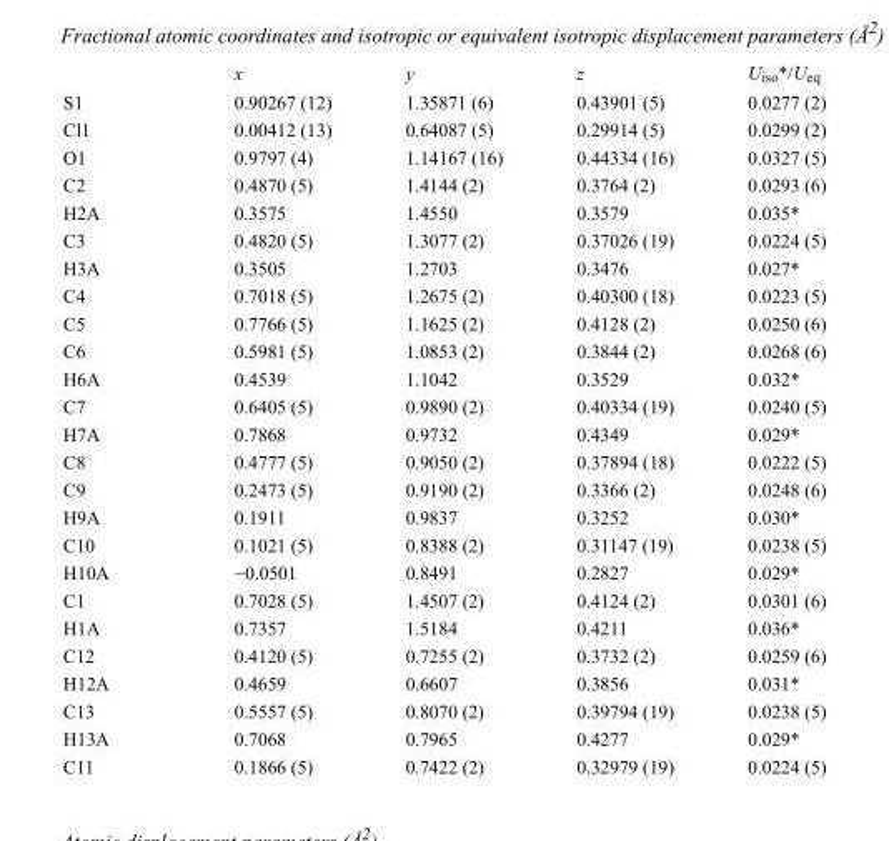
<table><thead><tr><td></td><td>x</td><td>y</td><td>z</td><td>U<sub>iso</sub>*/U<sub>eq</sub></td></tr></thead><tbody><tr><td>S1</td><td>0.90267 (12)</td><td>1.35871 (6)</td><td>0.43901 (5)</td><td>0.0277 (2)</td></tr><tr><td>Cl1</td><td>0.00412 (13)</td><td>0.64087 (5)</td><td>0.29914 (5)</td><td>0.0299 (2)</td></tr><tr><td>O1</td><td>0.9797 (4)</td><td>1.14167 (16)</td><td>0.44334 (16)</td><td>0.0327 (5)</td></tr><tr><td>C2</td><td>0.4870 (5)</td><td>1.4144 (2)</td><td>0.3764 (2)</td><td>0.0293 (6)</td></tr><tr><td>H2A</td><td>0.3575</td><td>1.4550</td><td>0.3579</td><td>0.035*</td></tr><tr><td>C3</td><td>0.4820 (5)</td><td>1.3077 (2)</td><td>0.37026 (19)</td><td>0.0224 (5)</td></tr><tr><td>H3A</td><td>0.3505</td><td>1.2703</td><td>0.3476</td><td>0.027*</td></tr><tr><td>C4</td><td>0.7018 (5)</td><td>1.2675 (2)</td><td>0.40300 (18)</td><td>0.0223 (5)</td></tr><tr><td>C5</td><td>0.7766 (5)</td><td>1.1625 (2)</td><td>0.4128 (2)</td><td>0.0250 (6)</td></tr><tr><td>C6</td><td>0.5981 (5)</td><td>1.0853 (2)</td><td>0.3844 (2)</td><td>0.0268 (6)</td></tr><tr><td>H6A</td><td>0.4539</td><td>1.1042</td><td>0.3529</td><td>0.032*</td></tr><tr><td>C7</td><td>0.6405 (5)</td><td>0.9890 (2)</td><td>0.40334 (19)</td><td>0.0240 (5)</td></tr><tr><td>H7A</td><td>0.7868</td><td>0.9732</td><td>0.4349</td><td>0.029*</td></tr><tr><td>C8</td><td>0.4777 (5)</td><td>0.9050 (2)</td><td>0.37894 (18)</td><td>0.0222 (5)</td></tr><tr><td>C9</td><td>0.2473 (5)</td><td>0.9190 (2)</td><td>0.3366 (2)</td><td>0.0248 (6)</td></tr><tr><td>H9A</td><td>0.1911</td><td>0.9837</td><td>0.3252</td><td>0.030*</td></tr><tr><td>C10</td><td>0.1021 (5)</td><td>0.8388 (2)</td><td>0.31147 (19)</td><td>0.0238 (5)</td></tr><tr><td>H10A</td><td>−0.0501</td><td>0.8491</td><td>0.2827</td><td>0.029*</td></tr><tr><td>C1</td><td>0.7028 (5)</td><td>1.4507 (2)</td><td>0.4124 (2)</td><td>0.0301 (6)</td></tr><tr><td>H1A</td><td>0.7357</td><td>1.5184</td><td>0.4211</td><td>0.036*</td></tr><tr><td>C12</td><td>0.4120 (5)</td><td>0.7255 (2)</td><td>0.3732 (2)</td><td>0.0259 (6)</td></tr><tr><td>H12A</td><td>0.4659</td><td>0.6607</td><td>0.3856</td><td>0.031*</td></tr><tr><td>C13</td><td>0.5557 (5)</td><td>0.8070 (2)</td><td>0.39794 (19)</td><td>0.0238 (5)</td></tr><tr><td>H13A</td><td>0.7068</td><td>0.7965</td><td>0.4277</td><td>0.029*</td></tr><tr><td>C11</td><td>0.1866 (5)</td><td>0.7422 (2)</td><td>0.32979 (19)</td><td>0.0224 (5)</td></tr></tbody></table>